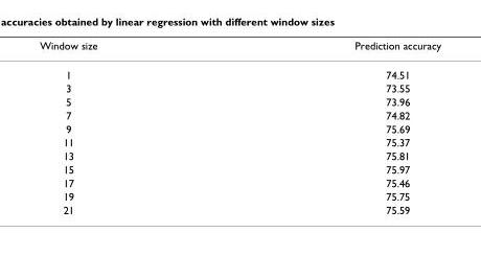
<table><thead><tr><td>Window size</td><td>Prediction accuracy</td></tr></thead><tbody><tr><td>1</td><td>74.51</td></tr><tr><td>3</td><td>73.55</td></tr><tr><td>5</td><td>73.96</td></tr><tr><td>7</td><td>74.82</td></tr><tr><td>9</td><td>75.69</td></tr><tr><td>11</td><td>75.37</td></tr><tr><td>13</td><td>75.81</td></tr><tr><td>15</td><td>75.97</td></tr><tr><td>17</td><td>75.46</td></tr><tr><td>19</td><td>75.75</td></tr><tr><td>21</td><td>75.59</td></tr></tbody></table>